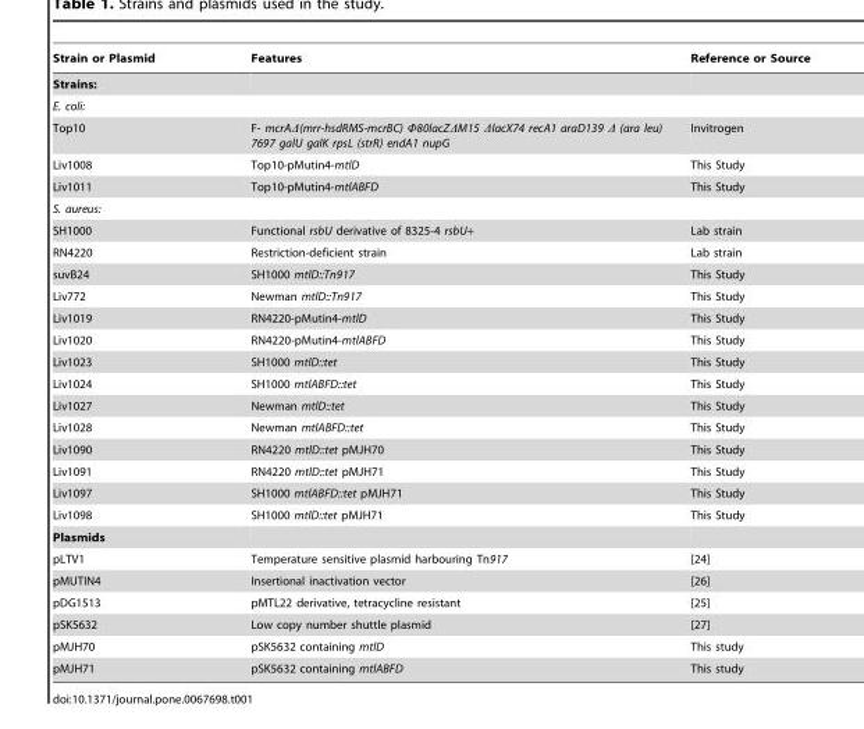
<table><thead><tr><td>Strain or Plasmid</td><td>Features</td><td>Reference or Source</td></tr></thead><tbody><tr><td colspan="3">Strains:</td></tr><tr><td colspan="3">E. coli:</td></tr><tr><td>Top10</td><td>F- mcrAΔ(mrr-hsdRMS-mcrBC) Φ80lacZΔM15 ΔlacX74 recA1 araD139 Δ (ara leu) 7697 galU galK rpsL (strR) endA1 nupG</td><td>Invitrogen</td></tr><tr><td>Liv1008</td><td>Top10-pMutin4-mtlD</td><td>This Study</td></tr><tr><td>Liv1011</td><td>Top10-pMutin4-mtlABFD</td><td>This Study</td></tr><tr><td colspan="3">S. aureus:</td></tr><tr><td>SH1000</td><td>Functional rsbU derivative of 8325-4 rsbU+</td><td>Lab strain</td></tr><tr><td>RN4220</td><td>Restriction-deficient strain</td><td>Lab strain</td></tr><tr><td>suvB24</td><td>SH1000 mtlD::Tn917</td><td>This Study</td></tr><tr><td>Liv772</td><td>Newman mtlD::Tn917</td><td>This Study</td></tr><tr><td>Liv1019</td><td>RN4220-pMutin4-mtlD</td><td>This Study</td></tr><tr><td>Liv1020</td><td>RN4220-pMutin4-mtlABFD</td><td>This Study</td></tr><tr><td>Liv1023</td><td>SH1000 mtlD::tet</td><td>This Study</td></tr><tr><td>Liv1024</td><td>SH1000 mtlABFD::tet</td><td>This Study</td></tr><tr><td>Liv1027</td><td>Newman mtlD::tet</td><td>This Study</td></tr><tr><td>Liv1028</td><td>Newman mtlABFD::tet</td><td>This Study</td></tr><tr><td>Liv1090</td><td>RN4220 mtlD::tet pMJH70</td><td>This Study</td></tr><tr><td>Liv1091</td><td>RN4220 mtlD::tet pMJH71</td><td>This Study</td></tr><tr><td>Liv1097</td><td>SH1000 mtlABFD::tet pMJH71</td><td>This Study</td></tr><tr><td>Liv1098</td><td>SH1000 mtlD::tet pMJH71</td><td>This Study</td></tr><tr><td colspan="3">Plasmids</td></tr><tr><td>pLTV1</td><td>Temperature sensitive plasmid harbouring Tn917</td><td>[24]</td></tr><tr><td>pMUTIN4</td><td>Insertional inactivation vector</td><td>[26]</td></tr><tr><td>pDG1513</td><td>pMTL22 derivative, tetracycline resistant</td><td>[25]</td></tr><tr><td>pSK5632</td><td>Low copy number shuttle plasmid</td><td>[27]</td></tr><tr><td>pMJH70</td><td>pSK5632 containing mtlD</td><td>This study</td></tr><tr><td>pMJH71</td><td>pSK5632 containing mtlABFD</td><td>This study</td></tr></tbody></table>